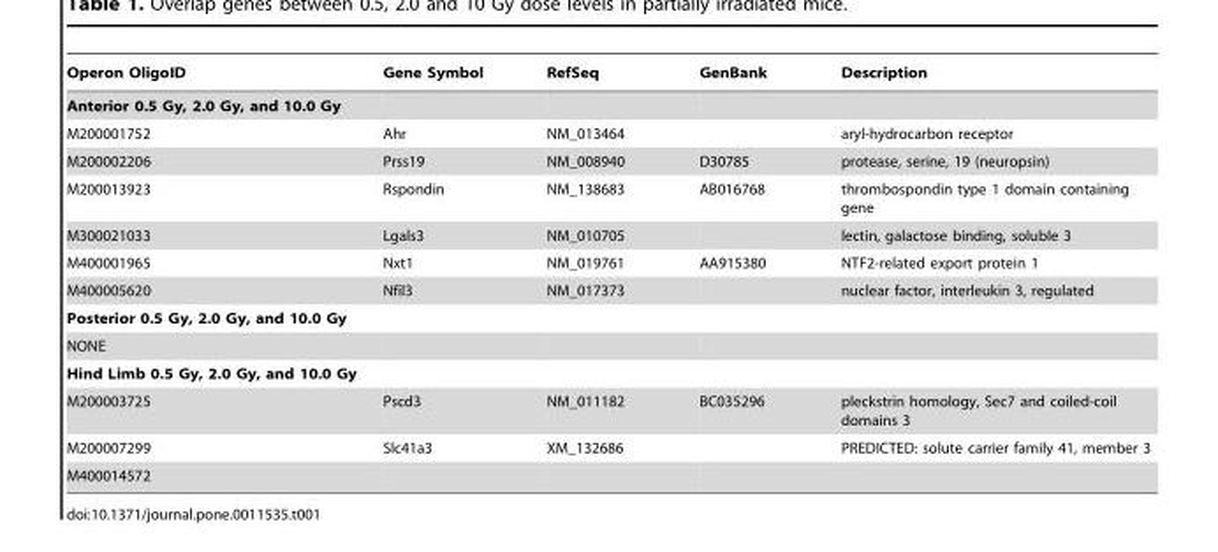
<table><thead><tr><td>Operon OligoID</td><td>Gene Symbol</td><td>RefSeq</td><td>GenBank</td><td>Description</td></tr></thead><tbody><tr><td colspan="5">Anterior 0.5 Gy, 2.0 Gy, and 10.0 Gy</td></tr><tr><td>M200001752</td><td>Ahr</td><td>NM_013464</td><td></td><td>aryl-hydrocarbon receptor</td></tr><tr><td>M200002206</td><td>Prss19</td><td>NM_008940</td><td>D30785</td><td>protease, serine, 19 (neuropsin)</td></tr><tr><td>M200013923</td><td>Rspondin</td><td>NM_138683</td><td>AB016768</td><td>thrombospondin type 1 domain containing gene</td></tr><tr><td>M300021033</td><td>Lgals3</td><td>NM_010705</td><td></td><td>lectin, galactose binding, soluble 3</td></tr><tr><td>M400001965</td><td>Nxt1</td><td>NM_019761</td><td>AA915380</td><td>NTF2-related export protein 1</td></tr><tr><td>M400005620</td><td>Nfil3</td><td>NM_017373</td><td></td><td>nuclear factor, interleukin 3, regulated</td></tr><tr><td colspan="5">Posterior 0.5 Gy, 2.0 Gy, and 10.0 Gy</td></tr><tr><td colspan="5">NONE</td></tr><tr><td colspan="5">Hind Limb 0.5 Gy, 2.0 Gy, and 10.0 Gy</td></tr><tr><td>M200003725</td><td>Pscd3</td><td>NM_011182</td><td>BC035296</td><td>pleckstrin homology, Sec7 and coiled-coil domains 3</td></tr><tr><td>M200007299</td><td>Slc41a3</td><td>XM_132686</td><td></td><td>PREDICTED: solute carrier family 41, member 3</td></tr><tr><td>M400014572</td><td></td><td></td><td></td><td></td></tr></tbody></table>